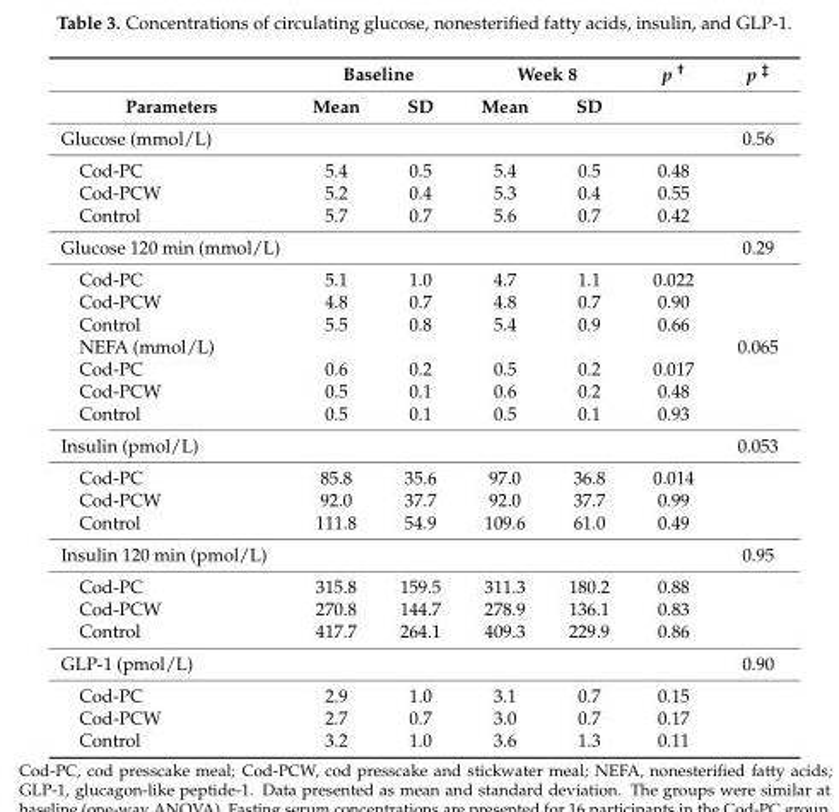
<table><thead><tr><td rowspan="2">Parameters</td><td colspan="2">Baseline</td><td colspan="2">Week 8</td><td rowspan="2">p <sup>†</sup></td><td rowspan="2">p <sup>‡</sup></td></tr><tr><td>Mean</td><td>SD</td><td>Mean</td><td>SD</td></tr></thead><tbody><tr><td colspan="6">Glucose (mmol/L)</td><td>0.56</td></tr><tr><td>Cod-PC</td><td>5.4</td><td>0.5</td><td>5.4</td><td>0.5</td><td>0.48</td><td></td></tr><tr><td>Cod-PCW</td><td>5.2</td><td>0.4</td><td>5.3</td><td>0.4</td><td>0.55</td><td></td></tr><tr><td>Control</td><td>5.7</td><td>0.7</td><td>5.6</td><td>0.7</td><td>0.42</td><td></td></tr><tr><td colspan="6">Glucose 120 min (mmol/L)</td><td>0.29</td></tr><tr><td>Cod-PC</td><td>5.1</td><td>1.0</td><td>4.7</td><td>1.1</td><td>0.022</td><td></td></tr><tr><td>Cod-PCW</td><td>4.8</td><td>0.7</td><td>4.8</td><td>0.7</td><td>0.90</td><td></td></tr><tr><td>Control</td><td>5.5</td><td>0.8</td><td>5.4</td><td>0.9</td><td>0.66</td><td></td></tr><tr><td>NEFA (mmol/L)</td><td></td><td></td><td></td><td></td><td></td><td>0.065</td></tr><tr><td>Cod-PC</td><td>0.6</td><td>0.2</td><td>0.5</td><td>0.2</td><td>0.017</td><td></td></tr><tr><td>Cod-PCW</td><td>0.5</td><td>0.1</td><td>0.6</td><td>0.2</td><td>0.48</td><td></td></tr><tr><td>Control</td><td>0.5</td><td>0.1</td><td>0.5</td><td>0.1</td><td>0.93</td><td></td></tr><tr><td colspan="6">Insulin (pmol/L)</td><td>0.053</td></tr><tr><td>Cod-PC</td><td>85.8</td><td>35.6</td><td>97.0</td><td>36.8</td><td>0.014</td><td></td></tr><tr><td>Cod-PCW</td><td>92.0</td><td>37.7</td><td>92.0</td><td>37.7</td><td>0.99</td><td></td></tr><tr><td>Control</td><td>111.8</td><td>54.9</td><td>109.6</td><td>61.0</td><td>0.49</td><td></td></tr><tr><td colspan="6">Insulin 120 min (pmol/L)</td><td>0.95</td></tr><tr><td>Cod-PC</td><td>315.8</td><td>159.5</td><td>311.3</td><td>180.2</td><td>0.88</td><td></td></tr><tr><td>Cod-PCW</td><td>270.8</td><td>144.7</td><td>278.9</td><td>136.1</td><td>0.83</td><td></td></tr><tr><td>Control</td><td>417.7</td><td>264.1</td><td>409.3</td><td>229.9</td><td>0.86</td><td></td></tr><tr><td colspan="6">GLP-1 (pmol/L)</td><td>0.90</td></tr><tr><td>Cod-PC</td><td>2.9</td><td>1.0</td><td>3.1</td><td>0.7</td><td>0.15</td><td></td></tr><tr><td>Cod-PCW</td><td>2.7</td><td>0.7</td><td>3.0</td><td>0.7</td><td>0.17</td><td></td></tr><tr><td>Control</td><td>3.2</td><td>1.0</td><td>3.6</td><td>1.3</td><td>0.11</td><td></td></tr></tbody></table>